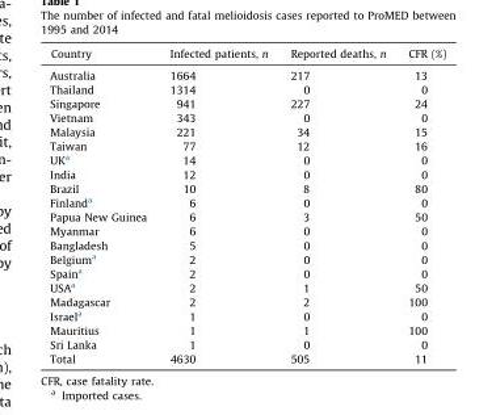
<table><thead><tr><td>Country</td><td>Infected patients, n</td><td>Reported deaths, n</td><td>CFR (%)</td></tr></thead><tbody><tr><td>Australia</td><td>1664</td><td>217</td><td>13</td></tr><tr><td>Thailand</td><td>1314</td><td>0</td><td>0</td></tr><tr><td>Singapore</td><td>941</td><td>227</td><td>24</td></tr><tr><td>Vietnam</td><td>343</td><td>0</td><td>0</td></tr><tr><td>Malaysia</td><td>221</td><td>34</td><td>15</td></tr><tr><td>Taiwan</td><td>77</td><td>12</td><td>16</td></tr><tr><td>UK<sup>a</sup></td><td>14</td><td>0</td><td>0</td></tr><tr><td>India</td><td>12</td><td>0</td><td>0</td></tr><tr><td>Brazil</td><td>10</td><td>8</td><td>80</td></tr><tr><td>Finland<sup>a</sup></td><td>6</td><td>0</td><td>0</td></tr><tr><td>Papua New Guinea</td><td>6</td><td>3</td><td>50</td></tr><tr><td>Myanmar</td><td>6</td><td>0</td><td>0</td></tr><tr><td>Bangladesh</td><td>5</td><td>0</td><td>0</td></tr><tr><td>Belgium<sup>a</sup></td><td>2</td><td>0</td><td>0</td></tr><tr><td>Spain<sup>a</sup></td><td>2</td><td>0</td><td>0</td></tr><tr><td>USA<sup>a</sup></td><td>2</td><td>1</td><td>50</td></tr><tr><td>Madagascar</td><td>2</td><td>2</td><td>100</td></tr><tr><td>Israel<sup>a</sup></td><td>1</td><td>0</td><td>0</td></tr><tr><td>Mauritius</td><td>1</td><td>1</td><td>100</td></tr><tr><td>Sri Lanka</td><td>1</td><td>0</td><td>0</td></tr><tr><td>Total</td><td>4630</td><td>505</td><td>11</td></tr></tbody></table>